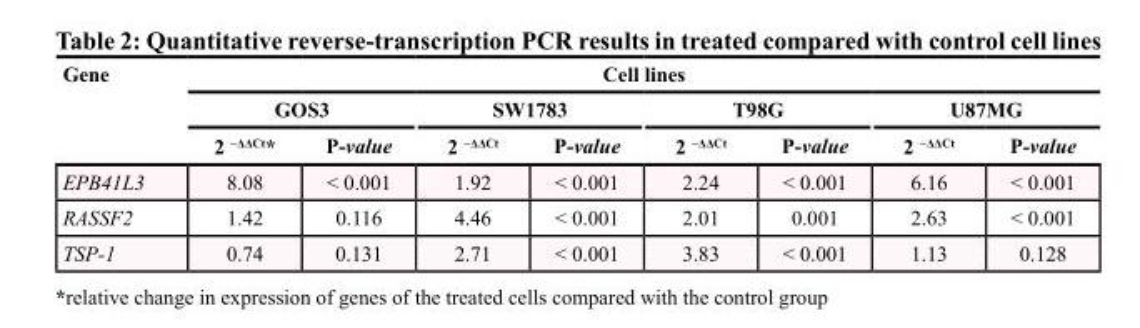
<table><thead><tr><td rowspan="3">Gene</td><td colspan="8">Cell lines</td></tr><tr><td colspan="2">GOS3</td><td colspan="2">SW1783</td><td colspan="2">T98G</td><td colspan="2">U87MG</td></tr><tr><td>2 <sup>−ΔΔCt*</sup></td><td>P-value</td><td>2 <sup>−ΔΔCt</sup></td><td>P-value</td><td>2 <sup>−ΔΔCt</sup></td><td>P-value</td><td>2 <sup>−ΔΔCt</sup></td><td>P-value</td></tr></thead><tbody><tr><td>EPB41L3</td><td>8.08</td><td>&lt; 0.001</td><td>1.92</td><td>&lt; 0.001</td><td>2.24</td><td>&lt; 0.001</td><td>6.16</td><td>&lt; 0.001</td></tr><tr><td>RASSF2</td><td>1.42</td><td>0.116</td><td>4.46</td><td>&lt; 0.001</td><td>2.01</td><td>0.001</td><td>2.63</td><td>&lt; 0.001</td></tr><tr><td>TSP-1</td><td>0.74</td><td>0.131</td><td>2.71</td><td>&lt; 0.001</td><td>3.83</td><td>&lt; 0.001</td><td>1.13</td><td>0.128</td></tr></tbody></table>